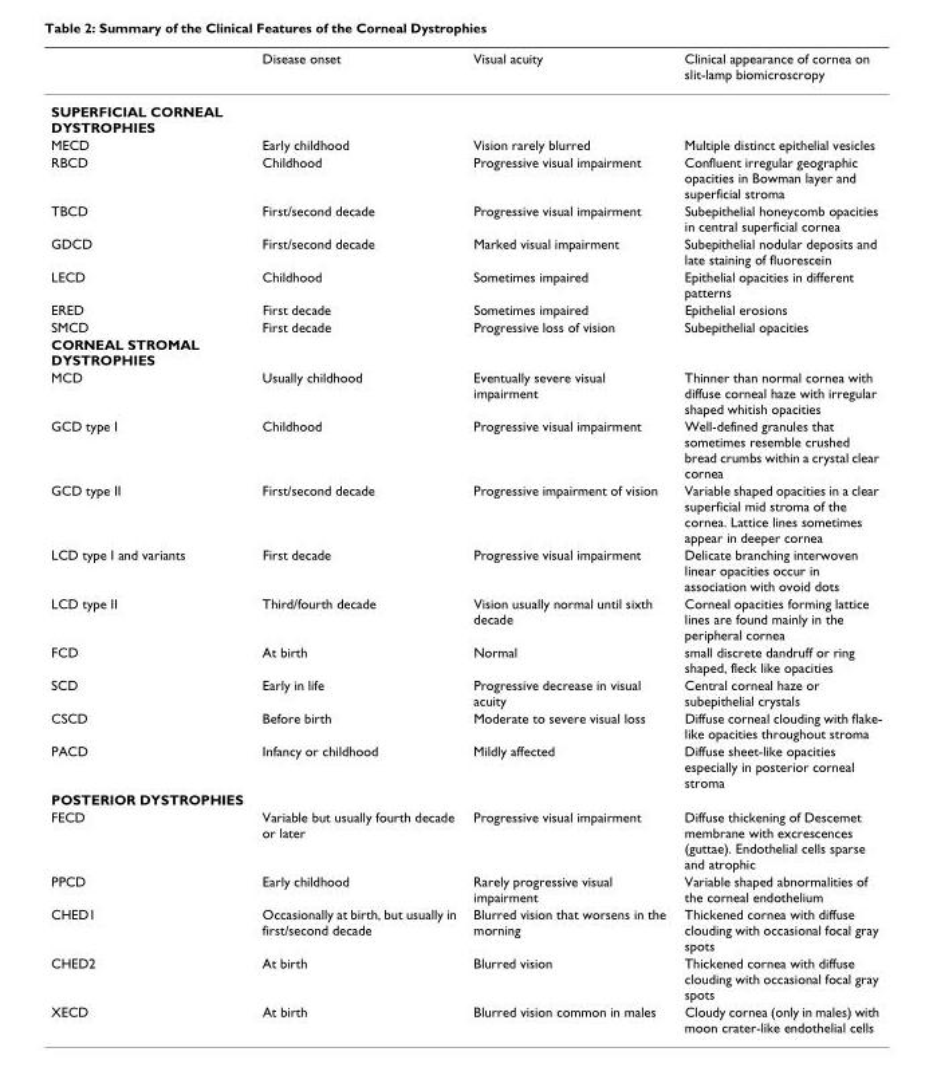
<table><thead><tr><td></td><td>Disease onset</td><td>Visual acuity</td><td>Clinical appearance of cornea on slit-lamp biomicroscropy</td></tr></thead><tbody><tr><td colspan="4">SUPERFICIAL CORNEAL DYSTROPHIES</td></tr><tr><td>MECD</td><td>Early childhood</td><td>Vision rarely blurred</td><td>Multiple distinct epithelial vesicles</td></tr><tr><td>RBCD</td><td>Childhood</td><td>Progressive visual impairment</td><td>Confluent irregular geographic opacities in Bowman layer and superficial stroma</td></tr><tr><td>TBCD</td><td>First/second decade</td><td>Progressive visual impairment</td><td>Subepithelial honeycomb opacities in central superficial cornea</td></tr><tr><td>GDCD</td><td>First/second decade</td><td>Marked visual impairment</td><td>Subepithelial nodular deposits and late staining of fluorescein</td></tr><tr><td>LECD</td><td>Childhood</td><td>Sometimes impaired</td><td>Epithelial opacities in different patterns</td></tr><tr><td>ERED</td><td>First decade</td><td>Sometimes impaired</td><td>Epithelial erosions</td></tr><tr><td>SMCD</td><td>First decade</td><td>Progressive loss of vision</td><td>Subepithelial opacities</td></tr><tr><td colspan="4">CORNEAL STROMAL DYSTROPHIES</td></tr><tr><td>MCD</td><td>Usually childhood</td><td>Eventually severe visual impairment</td><td>Thinner than normal cornea with diffuse corneal haze with irregular shaped whitish opacities</td></tr><tr><td>GCD type I</td><td>Childhood</td><td>Progressive visual impairment</td><td>Well-defined granules that sometimes resemble crushed bread crumbs within a crystal clear cornea</td></tr><tr><td>GCD type II</td><td>First/second decade</td><td>Progressive impairment of vision</td><td>Variable shaped opacities in a clear superficial mid stroma of the cornea. Lattice lines sometimes appear in deeper cornea</td></tr><tr><td>LCD type I and variants</td><td>First decade</td><td>Progressive visual impairment</td><td>Delicate branching interwoven linear opacities occur in association with ovoid dots</td></tr><tr><td>LCD type II</td><td>Third/fourth decade</td><td>Vision usually normal until sixth decade</td><td>Corneal opacities forming lattice lines are found mainly in the peripheral cornea</td></tr><tr><td>FCD</td><td>At birth</td><td>Normal</td><td>small discrete dandruff or ring shaped, fleck like opacities</td></tr><tr><td>SCD</td><td>Early in life</td><td>Progressive decrease in visual acuity</td><td>Central corneal haze or subepithelial crystals</td></tr><tr><td>CSCD</td><td>Before birth</td><td>Moderate to severe visual loss</td><td>Diffuse corneal clouding with flake- like opacities throughout stroma</td></tr><tr><td>PACD</td><td>Infancy or childhood</td><td>Mildly affected</td><td>Diffuse sheet-like opacities especially in posterior corneal stroma</td></tr><tr><td colspan="4">POSTERIOR DYSTROPHIES</td></tr><tr><td>FECD</td><td>Variable but usually fourth decade or later</td><td>Progressive visual impairment</td><td>Diffuse thickening of Descemet membrane with excrescences (guttae). Endothelial cells sparse and atrophic</td></tr><tr><td>PPCD</td><td>Early childhood</td><td>Rarely progressive visual impairment</td><td>Variable shaped abnormalities of the corneal endothelium</td></tr><tr><td>CHED1</td><td>Occasionally at birth, but usually in first/second decade</td><td>Blurred vision that worsens in the morning</td><td>Thickened cornea with diffuse clouding with occasional focal gray spots</td></tr><tr><td>CHED2</td><td>At birth</td><td>Blurred vision</td><td>Thickened cornea with diffuse clouding with occasional focal gray spots</td></tr><tr><td>XECD</td><td>At birth</td><td>Blurred vision common in males</td><td>Cloudy cornea (only in males) with moon crater-like endothelial cells</td></tr></tbody></table>